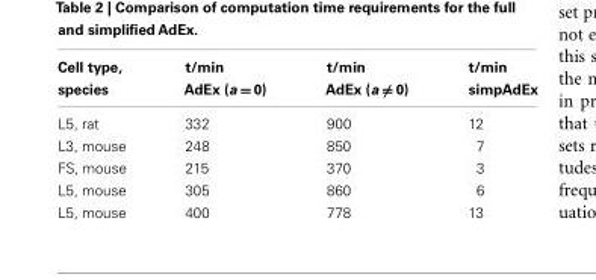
<table><thead><tr><td>Cell type, species</td><td>t/min AdEx (a = 0)</td><td>t/min AdEx (a ̸= 0)</td><td>t/min simpAdEx</td></tr></thead><tbody><tr><td>L5, rat</td><td>332</td><td>900</td><td>12</td></tr><tr><td>L3, mouse</td><td>248</td><td>850</td><td>7</td></tr><tr><td>FS, mouse</td><td>215</td><td>370</td><td>3</td></tr><tr><td>L5, mouse</td><td>305</td><td>860</td><td>6</td></tr><tr><td>L5, mouse</td><td>400</td><td>778</td><td>13</td></tr></tbody></table>